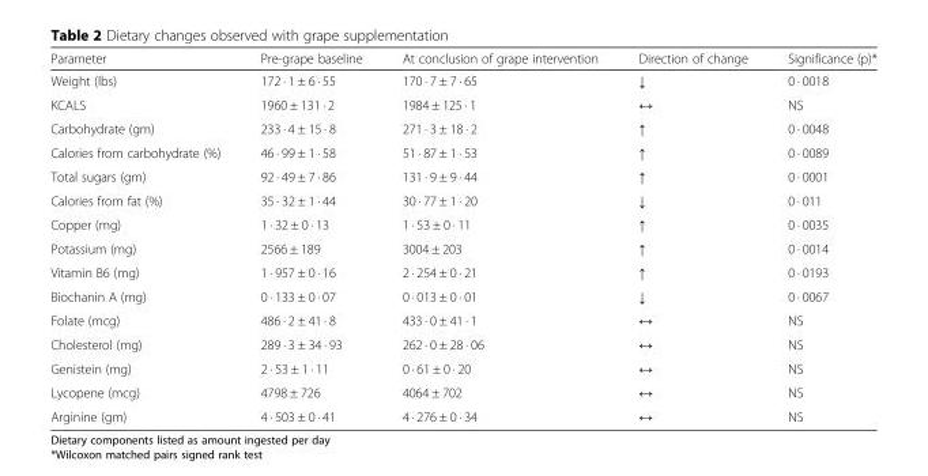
<table><thead><tr><td>Parameter</td><td>Pre-grape baseline</td><td>At conclusion of grape intervention</td><td>Direction of change</td><td>Significance (p)*</td></tr></thead><tbody><tr><td>Weight (lbs)</td><td>172 · 1 ± 6 · 55</td><td>170 · 7 ± 7 · 65</td><td>↓</td><td>0 · 0018</td></tr><tr><td>KCALS</td><td>1960 ± 131 · 2</td><td>1984 ± 125 · 1</td><td>↔</td><td>NS</td></tr><tr><td>Carbohydrate (gm)</td><td>233 · 4 ± 15 · 8</td><td>271 · 3 ± 18 · 2</td><td>↑</td><td>0 · 0048</td></tr><tr><td>Calories from carbohydrate (%)</td><td>46 · 99 ± 1 · 58</td><td>51 · 87 ± 1 · 53</td><td>↑</td><td>0 · 0089</td></tr><tr><td>Total sugars (gm)</td><td>92 · 49 ± 7 · 86</td><td>131 · 9 ± 9 · 44</td><td>↑</td><td>0 · 0001</td></tr><tr><td>Calories from fat (%)</td><td>35 · 32 ± 1 · 44</td><td>30 · 77 ± 1 · 20</td><td>↓</td><td>0 · 011</td></tr><tr><td>Copper (mg)</td><td>1 · 32 ± 0 · 13</td><td>1 · 53 ± 0 · 11</td><td>↑</td><td>0 · 0035</td></tr><tr><td>Potassium (mg)</td><td>2566 ± 189</td><td>3004 ± 203</td><td>↑</td><td>0 · 0014</td></tr><tr><td>Vitamin B6 (mg)</td><td>1 · 957 ± 0 · 16</td><td>2 · 254 ± 0 · 21</td><td>↑</td><td>0 · 0193</td></tr><tr><td>Biochanin A (mg)</td><td>0 · 133 ± 0 · 07</td><td>0 · 013 ± 0 · 01</td><td>↓</td><td>0 · 0067</td></tr><tr><td>Folate (mcg)</td><td>486 · 2 ± 41 · 8</td><td>433 · 0 ± 41 · 1</td><td>↔</td><td>NS</td></tr><tr><td>Cholesterol (mg)</td><td>289 · 3 ± 34 · 93</td><td>262 · 0 ± 28 · 06</td><td>↔</td><td>NS</td></tr><tr><td>Genistein (mg)</td><td>2 · 53 ± 1 · 11</td><td>0 · 61 ± 0 · 20</td><td>↔</td><td>NS</td></tr><tr><td>Lycopene (mcg)</td><td>4798 ± 726</td><td>4064 ± 702</td><td>↔</td><td>NS</td></tr><tr><td>Arginine (gm)</td><td>4 · 503 ± 0 · 41</td><td>4 · 276 ± 0 · 34</td><td>↔</td><td>NS</td></tr></tbody></table>